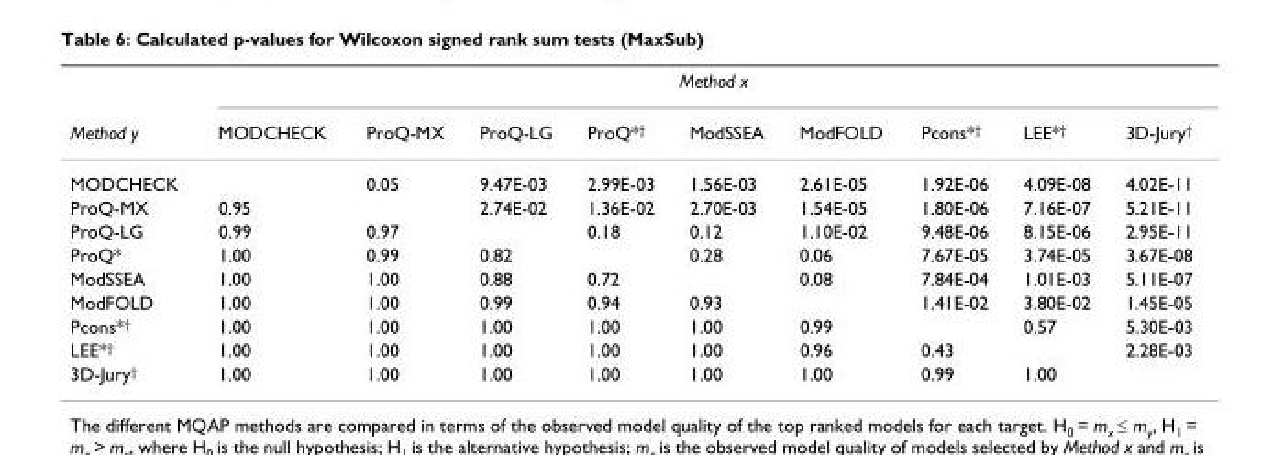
<table><thead><tr><td rowspan="2">Method y</td><td colspan="9">Method x</td></tr><tr><td>MODCHECK</td><td>ProQ-MX</td><td>ProQ-LG</td><td>ProQ*<sup>†</sup></td><td>ModSSEA</td><td>ModFOLD</td><td>Pcons*<sup>†</sup></td><td>LEE*<sup>†</sup></td><td>3D-Jury<sup>†</sup></td></tr></thead><tbody><tr><td>MODCHECK</td><td></td><td>0.05</td><td>9.47E-03</td><td>2.99E-03</td><td>1.56E-03</td><td>2.61E-05</td><td>1.92E-06</td><td>4.09E-08</td><td>4.02E-11</td></tr><tr><td>ProQ-MX</td><td>0.95</td><td></td><td>2.74E-02</td><td>1.36E-02</td><td>2.70E-03</td><td>1.54E-05</td><td>1.80E-06</td><td>7.16E-07</td><td>5.21E-11</td></tr><tr><td>ProQ-LG</td><td>0.99</td><td>0.97</td><td></td><td>0.18</td><td>0.12</td><td>1.10E-02</td><td>9.48E-06</td><td>8.15E-06</td><td>2.95E-11</td></tr><tr><td>ProQ*</td><td>1.00</td><td>0.99</td><td>0.82</td><td></td><td>0.28</td><td>0.06</td><td>7.67E-05</td><td>3.74E-05</td><td>3.67E-08</td></tr><tr><td>ModSSEA</td><td>1.00</td><td>1.00</td><td>0.88</td><td>0.72</td><td></td><td>0.08</td><td>7.84E-04</td><td>1.01E-03</td><td>5.11E-07</td></tr><tr><td>ModFOLD</td><td>1.00</td><td>1.00</td><td>0.99</td><td>0.94</td><td>0.93</td><td></td><td>1.41E-02</td><td>3.80E-02</td><td>1.45E-05</td></tr><tr><td>Pcons*<sup>†</sup></td><td>1.00</td><td>1.00</td><td>1.00</td><td>1.00</td><td>1.00</td><td>0.99</td><td></td><td>0.57</td><td>5.30E-03</td></tr><tr><td>LEE*<sup>†</sup></td><td>1.00</td><td>1.00</td><td>1.00</td><td>1.00</td><td>1.00</td><td>0.96</td><td>0.43</td><td></td><td>2.28E-03</td></tr><tr><td>3D-Jury<sup>†</sup></td><td>1.00</td><td>1.00</td><td>1.00</td><td>1.00</td><td>1.00</td><td>1.00</td><td>0.99</td><td>1.00</td><td></td></tr></tbody></table>